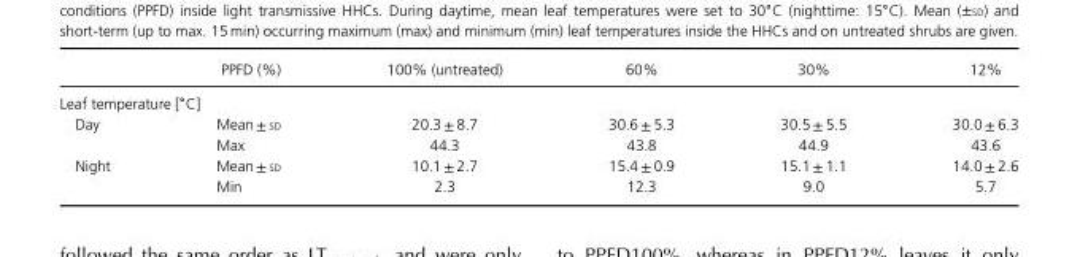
<table><thead><tr><td></td><td>PPFD (%)</td><td>100% (untreated)</td><td>60%</td><td>30%</td><td>12%</td></tr></thead><tbody><tr><td colspan="6">Leaf temperature [∘C]</td></tr><tr><td rowspan="2">Day</td><td>Mean ± SD</td><td>20.3 ± 8.7</td><td>30.6 ± 5.3</td><td>30.5 ± 5.5</td><td>30.0 ± 6.3</td></tr><tr><td>Max</td><td>44.3</td><td>43.8</td><td>44.9</td><td>43.6</td></tr><tr><td rowspan="2">Night</td><td>Mean ± SD</td><td>10.1 ± 2.7</td><td>15.4 ± 0.9</td><td>15.1 ± 1.1</td><td>14.0 ± 2.6</td></tr><tr><td>Min</td><td>2.3</td><td>12.3</td><td>9.0</td><td>5.7</td></tr></tbody></table>